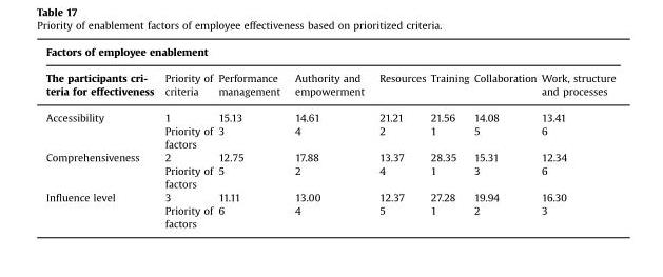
<table><thead><tr><td colspan="8">Factors of employee enablement</td></tr><tr><td>The participants cri- teria for effectiveness</td><td>Priority of criteria</td><td>Performance management</td><td>Authority and empowerment</td><td>Resources</td><td>Training</td><td>Collaboration</td><td>Work, structure and processes</td></tr></thead><tbody><tr><td rowspan="2">Accessibility</td><td>1</td><td>15.13</td><td>14.61</td><td>21.21</td><td>21.56</td><td>14.08</td><td>13.41</td></tr><tr><td>Priority of factors</td><td>3</td><td>4</td><td>2</td><td>1</td><td>5</td><td>6</td></tr><tr><td rowspan="2">Comprehensiveness</td><td>2</td><td>12.75</td><td>17.88</td><td>13.37</td><td>28.35</td><td>15.31</td><td>12.34</td></tr><tr><td>Priority of factors</td><td>5</td><td>2</td><td>4</td><td>1</td><td>3</td><td>6</td></tr><tr><td rowspan="2">Influence level</td><td>3</td><td>11.11</td><td>13.00</td><td>12.37</td><td>27.28</td><td>19.94</td><td>16.30</td></tr><tr><td>Priority of factors</td><td>6</td><td>4</td><td>5</td><td>1</td><td>2</td><td>3</td></tr></tbody></table>